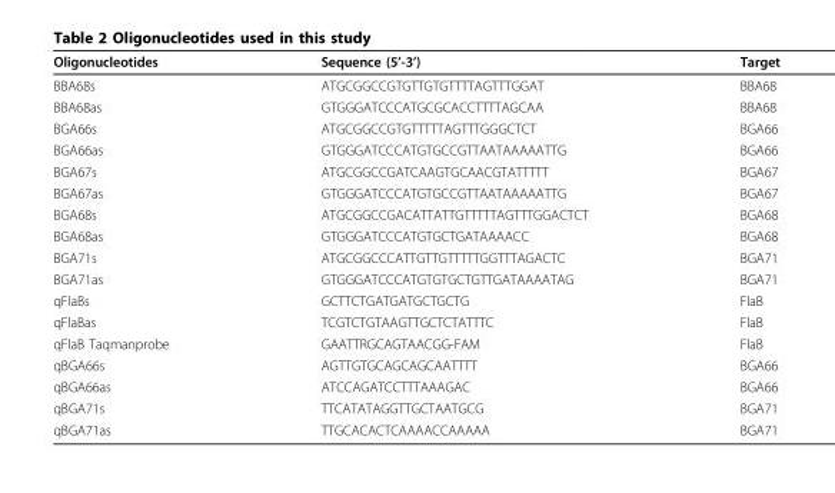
<table><thead><tr><td>Oligonucleotides</td><td>Sequence (5’-3’)</td><td>Target</td></tr></thead><tbody><tr><td>BBA68s</td><td>ATGCGGCCGTGTTGTGTTTTAGTTTGGAT</td><td>BBA68</td></tr><tr><td>BBA68as</td><td>GTGGGATCCCATGCGCACCTTTTAGCAA</td><td>BBA68</td></tr><tr><td>BGA66s</td><td>ATGCGGCCGTGTTTTTAGTTTGGGCTCT</td><td>BGA66</td></tr><tr><td>BGA66as</td><td>GTGGGATCCCATGTGCCGTTAATAAAAATTG</td><td>BGA66</td></tr><tr><td>BGA67s</td><td>ATGCGGCCGATCAAGTGCAACGTATTTTT</td><td>BGA67</td></tr><tr><td>BGA67as</td><td>GTGGGATCCCATGTGCCGTTAATAAAAATTG</td><td>BGA67</td></tr><tr><td>BGA68s</td><td>ATGCGGCCGACATTATTGTTTTTAGTTTGGACTCT</td><td>BGA68</td></tr><tr><td>BGA68as</td><td>GTGGGATCCCATGTGCTGATAAAACC</td><td>BGA68</td></tr><tr><td>BGA71s</td><td>ATGCGGCCCATTGTTGTTTTTGGTTTAGACTC</td><td>BGA71</td></tr><tr><td>BGA71as</td><td>GTGGGATCCCATGTGTGCTGTTGATAAAATAG</td><td>BGA71</td></tr><tr><td>qFlaBs</td><td>GCTTCTGATGATGCTGCTG</td><td>FlaB</td></tr><tr><td>qFlaBas</td><td>TCGTCTGTAAGTTGCTCTATTTC</td><td>FlaB</td></tr><tr><td>qFlaB Taqmanprobe</td><td>GAATTRGCAGTAACGG-FAM</td><td>FlaB</td></tr><tr><td>qBGA66s</td><td>AGTTGTGCAGCAGCAATTTT</td><td>BGA66</td></tr><tr><td>qBGA66as</td><td>ATCCAGATCCTTTAAAGAC</td><td>BGA66</td></tr><tr><td>qBGA71s</td><td>TTCATATAGGTTGCTAATGCG</td><td>BGA71</td></tr><tr><td>qBGA71as</td><td>TTGCACACTCAAAACCAAAAA</td><td>BGA71</td></tr></tbody></table>